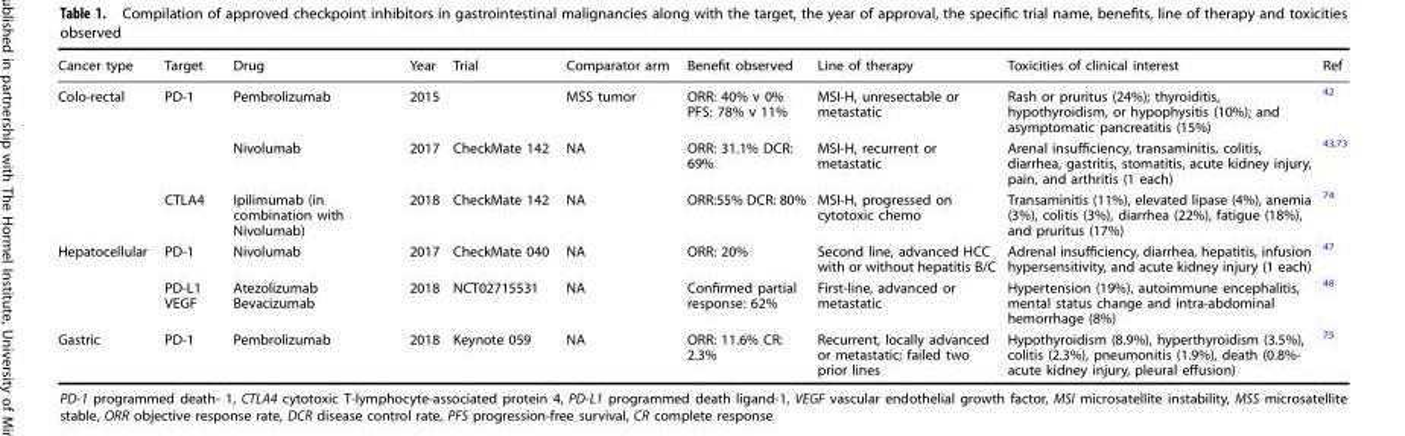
<table><thead><tr><td>Cancer type</td><td>Target</td><td>Drug</td><td>Year</td><td>Trial</td><td>Comparator arm</td><td>Benefit observed</td><td>Line of therapy</td><td>Toxicities of clinical interest</td><td>Ref</td></tr></thead><tbody><tr><td rowspan="3">Colo-rectal</td><td rowspan="2">PD-1</td><td>Pembrolizumab</td><td>2015</td><td></td><td>MSS tumor</td><td>ORR: 40% v 0% PFS: 78% v 11%</td><td>MSI-H, unresectable or metastatic</td><td>Rash or pruritus (24%); thyroiditis, hypothyroidism, or hypophysitis (10%); and asymptomatic pancreatitis (15%)</td><td><sup>42</sup></td></tr><tr><td>Nivolumab</td><td>2017</td><td>CheckMate 142</td><td>NA</td><td>ORR: 31.1% DCR: 69%</td><td>MSI-H, recurrent or metastatic</td><td>Arenal insufficiency, transaminitis, colitis, diarrhea, gastritis, stomatitis, acute kidney injury, pain, and arthritis (1 each)</td><td><sup>43,73</sup></td></tr><tr><td>CTLA4</td><td>Ipilimumab (in combination with Nivolumab)</td><td>2018</td><td>CheckMate 142</td><td>NA</td><td>ORR:55% DCR: 80%</td><td>MSI-H, progressed on cytotoxic chemo</td><td>Transaminitis (11%), elevated lipase (4%), anemia (3%), colitis (3%), diarrhea (22%), fatigue (18%), and pruritus (17%)</td><td><sup>74</sup></td></tr><tr><td rowspan="2">Hepatocellular</td><td>PD-1</td><td>Nivolumab</td><td>2017</td><td>CheckMate 040</td><td>NA</td><td>ORR: 20%</td><td>Second line, advanced HCC with or without hepatitis B/C</td><td>Adrenal insufficiency, diarrhea, hepatitis, infusion hypersensitivity, and acute kidney injury (1 each)</td><td><sup>47</sup></td></tr><tr><td>PD-L1 VEGF</td><td>Atezolizumab Bevacizumab</td><td>2018</td><td>NCT02715531</td><td>NA</td><td>Confirmed partial response: 62%</td><td>First-line, advanced or metastatic</td><td>Hypertension (19%), autoimmune encephalitis, mental status change and intra-abdominal hemorrhage (8%)</td><td><sup>48</sup></td></tr><tr><td>Gastric</td><td>PD-1</td><td>Pembrolizumab</td><td>2018</td><td>Keynote 059</td><td>NA</td><td>ORR: 11.6% CR: 2.3%</td><td>Recurrent, locally advanced or metastatic; failed two prior lines</td><td>Hypothyroidism (8.9%), hyperthyroidism (3.5%), colitis (2.3%), pneumonitis (1.9%), death (0.8%- acute kidney injury, pleural effusion)</td><td><sup>75</sup></td></tr></tbody></table>